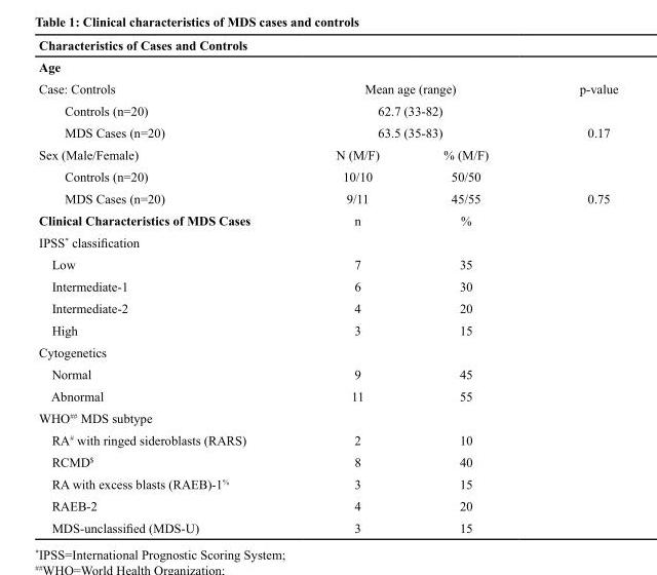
<table><thead><tr><td colspan="4">Characteristics of Cases and Controls</td></tr></thead><tbody><tr><td colspan="4">Age</td></tr><tr><td>Case: Controls</td><td colspan="2">Mean age (range)</td><td>p-value</td></tr><tr><td>Controls (n=20)</td><td colspan="2">62.7 (33-82)</td><td></td></tr><tr><td>MDS Cases (n=20)</td><td colspan="2">63.5 (35-83)</td><td>0.17</td></tr><tr><td>Sex (Male/Female)</td><td>N (M/F)</td><td>% (M/F)</td><td></td></tr><tr><td>Controls (n=20)</td><td>10/10</td><td>50/50</td><td></td></tr><tr><td>MDS Cases (n=20)</td><td>9/11</td><td>45/55</td><td>0.75</td></tr><tr><td>Clinical Characteristics of MDS Cases</td><td>n</td><td>%</td><td></td></tr><tr><td colspan="4">IPSS* classification</td></tr><tr><td>Low</td><td>7</td><td>35</td><td></td></tr><tr><td>Intermediate-1</td><td>6</td><td>30</td><td></td></tr><tr><td>Intermediate-2</td><td>4</td><td>20</td><td></td></tr><tr><td>High</td><td>3</td><td>15</td><td></td></tr><tr><td colspan="4">Cytogenetics</td></tr><tr><td>Normal</td><td>9</td><td>45</td><td></td></tr><tr><td>Abnormal</td><td>11</td><td>55</td><td></td></tr><tr><td colspan="4">WHO<sup>##</sup> MDS subtype</td></tr><tr><td>RA<sup>#</sup> with ringed sideroblasts (RARS)</td><td>2</td><td>10</td><td></td></tr><tr><td>RCMD<sup>$</sup></td><td>8</td><td>40</td><td></td></tr><tr><td>RA with excess blasts (RAEB)-1<sup>%</sup></td><td>3</td><td>15</td><td></td></tr><tr><td>RAEB-2</td><td>4</td><td>20</td><td></td></tr><tr><td>MDS-unclassified (MDS-U)</td><td>3</td><td>15</td><td></td></tr></tbody></table>